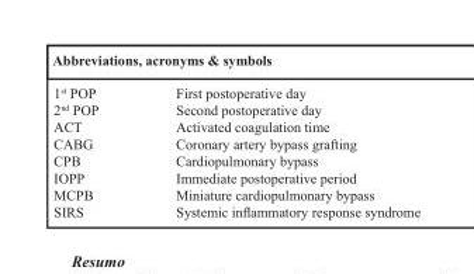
<table><thead><tr><td colspan="2">Abbreviations, acronyms &amp; symbols</td></tr><tr><td>1<sup>st</sup> POP</td><td>First postoperative day</td></tr></thead><tbody><tr><td>2<sup>nd</sup> POP</td><td>Second postoperative day</td></tr><tr><td>ACT</td><td>Activated coagulation time</td></tr><tr><td>CABG</td><td>Coronary artery bypass grafting</td></tr><tr><td>CPB</td><td>Cardiopulmonary bypass</td></tr><tr><td>IOPP</td><td>Immediate postoperative period</td></tr><tr><td>MCPB</td><td>Miniature cardiopulmonary bypass</td></tr><tr><td>SIRS</td><td>Systemic inflammatory response syndrome</td></tr></tbody></table>